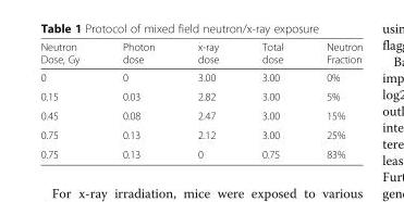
<table><thead><tr><td>Neutron Dose, Gy</td><td>Photon dose</td><td>x-ray dose</td><td>Total dose</td><td>Neutron Fraction</td></tr></thead><tbody><tr><td>0</td><td>0</td><td>3.00</td><td>3.00</td><td>0%</td></tr><tr><td>0.15</td><td>0.03</td><td>2.82</td><td>3.00</td><td>5%</td></tr><tr><td>0.45</td><td>0.08</td><td>2.47</td><td>3.00</td><td>15%</td></tr><tr><td>0.75</td><td>0.13</td><td>2.12</td><td>3.00</td><td>25%</td></tr><tr><td>0.75</td><td>0.13</td><td>0</td><td>0.75</td><td>83%</td></tr></tbody></table>